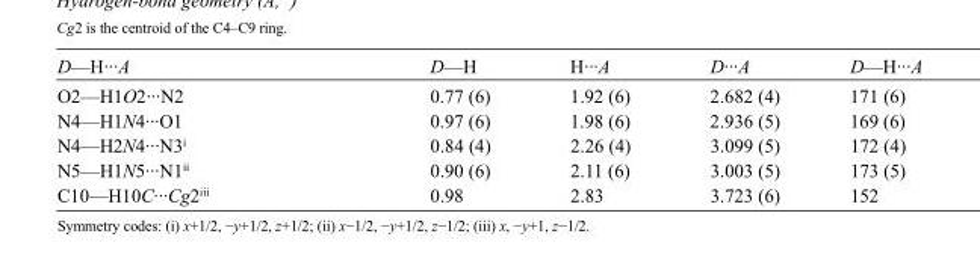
<table><tbody><tr><td>D—H···A</td><td>D—H</td><td>H···A</td><td>D···A</td><td>D—H···A</td></tr><tr><td>O2—H1O2···N2</td><td>0.77 (6)</td><td>1.92 (6)</td><td>2.682 (4)</td><td>171 (6)</td></tr><tr><td>N4—H1N4···O1</td><td>0.97 (6)</td><td>1.98 (6)</td><td>2.936 (5)</td><td>169 (6)</td></tr><tr><td>N4—H2N4···N3<sup>i</sup></td><td>0.84 (4)</td><td>2.26 (4)</td><td>3.099 (5)</td><td>172 (4)</td></tr><tr><td>N5—H1N5···N1<sup>ii</sup></td><td>0.90 (6)</td><td>2.11 (6)</td><td>3.003 (5)</td><td>173 (5)</td></tr><tr><td>C10—H10C···Cg2<sup>iii</sup></td><td>0.98</td><td>2.83</td><td>3.723 (6)</td><td>152</td></tr></tbody></table>